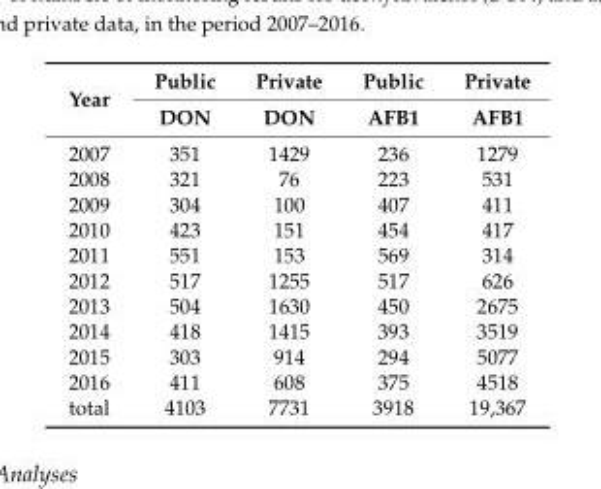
<table><thead><tr><td rowspan="2">Year</td><td rowspan="2">Public DON</td><td rowspan="2">Private DON</td><td rowspan="2">Public AFB1</td><td rowspan="2">Private AFB1</td></tr><tr></tr></thead><tbody><tr><td>2007</td><td>351</td><td>1429</td><td>236</td><td>1279</td></tr><tr><td>2008</td><td>321</td><td>76</td><td>223</td><td>531</td></tr><tr><td>2009</td><td>304</td><td>100</td><td>407</td><td>411</td></tr><tr><td>2010</td><td>423</td><td>151</td><td>454</td><td>417</td></tr><tr><td>2011</td><td>551</td><td>153</td><td>569</td><td>314</td></tr><tr><td>2012</td><td>517</td><td>1255</td><td>517</td><td>626</td></tr><tr><td>2013</td><td>504</td><td>1630</td><td>450</td><td>2675</td></tr><tr><td>2014</td><td>418</td><td>1415</td><td>393</td><td>3519</td></tr><tr><td>2015</td><td>303</td><td>914</td><td>294</td><td>5077</td></tr><tr><td>2016</td><td>411</td><td>608</td><td>375</td><td>4518</td></tr><tr><td>total</td><td>4103</td><td>7731</td><td>3918</td><td>19,367</td></tr></tbody></table>